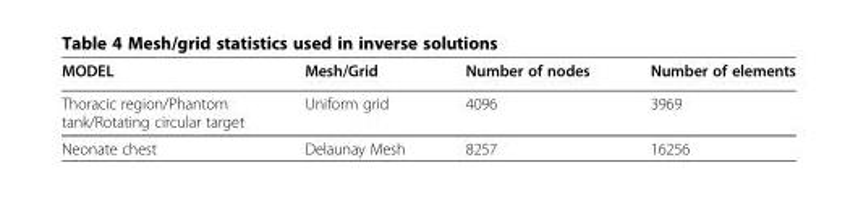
<table><thead><tr><td>MODEL</td><td>Mesh/Grid</td><td>Number of nodes</td><td>Number of elements</td></tr></thead><tbody><tr><td>Thoracic region/Phantom tank/Rotating circular target</td><td>Uniform grid</td><td>4096</td><td>3969</td></tr><tr><td>Neonate chest</td><td>Delaunay Mesh</td><td>8257</td><td>16256</td></tr></tbody></table>